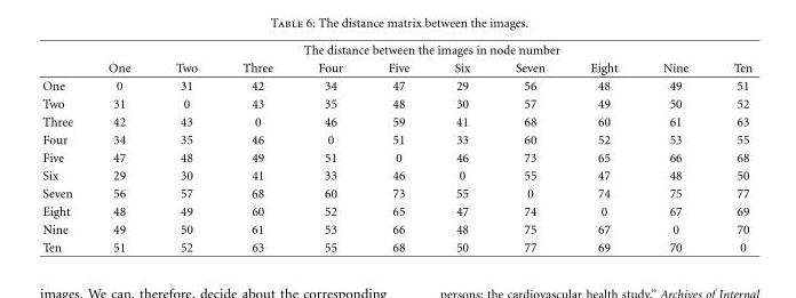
<table><thead><tr><td rowspan="2"></td><td colspan="10">The distance between the images in node number</td></tr><tr><td>One</td><td>Two</td><td>Three</td><td>Four</td><td>Five</td><td>Six</td><td>Seven</td><td>Eight</td><td>Nine</td><td>Ten</td></tr></thead><tbody><tr><td>One</td><td>0</td><td>31</td><td>42</td><td>34</td><td>47</td><td>29</td><td>56</td><td>48</td><td>49</td><td>51</td></tr><tr><td>Two</td><td>31</td><td>0</td><td>43</td><td>35</td><td>48</td><td>30</td><td>57</td><td>49</td><td>50</td><td>52</td></tr><tr><td>Three</td><td>42</td><td>43</td><td>0</td><td>46</td><td>59</td><td>41</td><td>68</td><td>60</td><td>61</td><td>63</td></tr><tr><td>Four</td><td>34</td><td>35</td><td>46</td><td>0</td><td>51</td><td>33</td><td>60</td><td>52</td><td>53</td><td>55</td></tr><tr><td>Five</td><td>47</td><td>48</td><td>49</td><td>51</td><td>0</td><td>46</td><td>73</td><td>65</td><td>66</td><td>68</td></tr><tr><td>Six</td><td>29</td><td>30</td><td>41</td><td>33</td><td>46</td><td>0</td><td>55</td><td>47</td><td>48</td><td>50</td></tr><tr><td>Seven</td><td>56</td><td>57</td><td>68</td><td>60</td><td>73</td><td>55</td><td>0</td><td>74</td><td>75</td><td>77</td></tr><tr><td>Eight</td><td>48</td><td>49</td><td>60</td><td>52</td><td>65</td><td>47</td><td>74</td><td>0</td><td>67</td><td>69</td></tr><tr><td>Nine</td><td>49</td><td>50</td><td>61</td><td>53</td><td>66</td><td>48</td><td>75</td><td>67</td><td>0</td><td>70</td></tr><tr><td>Ten</td><td>51</td><td>52</td><td>63</td><td>55</td><td>68</td><td>50</td><td>77</td><td>69</td><td>70</td><td>0</td></tr></tbody></table>